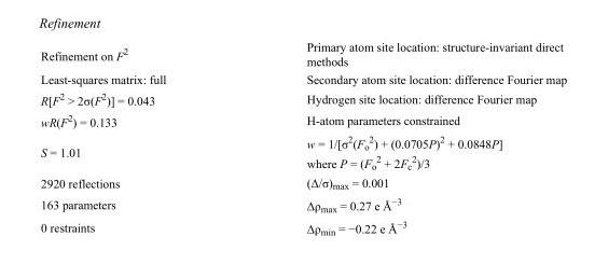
<table><tbody><tr><td>Refinement on F<sup>2</sup></td><td>Primary atom site location: structure-invariant direct methods</td></tr><tr><td>Least-squares matrix: full</td><td>Secondary atom site location: difference Fourier map</td></tr><tr><td>R[F<sup>2</sup> &gt; 2σ(F<sup>2</sup>)] = 0.043</td><td>Hydrogen site location: difference Fourier map</td></tr><tr><td>wR(F<sup>2</sup>) = 0.133</td><td>H-atom parameters constrained</td></tr><tr><td>S = 1.01</td><td>w = 1/[σ<sup>2</sup>(F<sub>o</sub> <sup>2</sup>) + (0.0705P)<sup>2</sup> + 0.0848P] where P = (F<sub>o</sub> <sup>2</sup> + 2F<sub>c</sub> <sup>2</sup>)/3</td></tr><tr><td>2920 reflections</td><td>(Δ/σ)<sub>max</sub> = 0.001</td></tr><tr><td>163 parameters</td><td>Δρ<sub>max</sub> = 0.27 e Å<sup>−3</sup></td></tr><tr><td>0 restraints</td><td>Δρ<sub>min</sub> = −0.22 e Å<sup>−3</sup></td></tr></tbody></table>